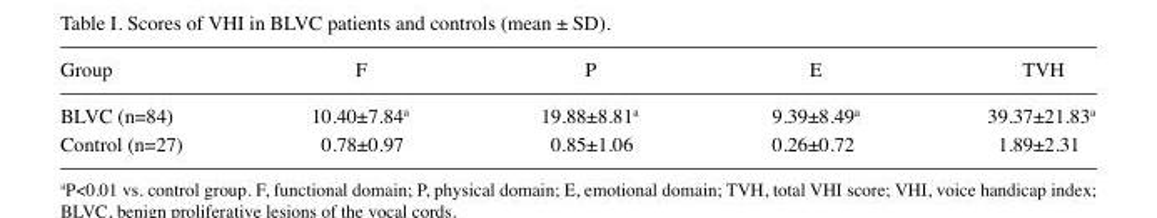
<table><thead><tr><td>Group</td><td>F</td><td>P</td><td>E</td><td>TVH</td></tr></thead><tbody><tr><td>BLVC (n=84)</td><td>10.40±7.84<sup>a</sup></td><td>19.88±8.81<sup>a</sup></td><td>9.39±8.49<sup>a</sup></td><td>39.37±21.83<sup>a</sup></td></tr><tr><td>Control (n=27)</td><td>0.78±0.97</td><td>0.85±1.06</td><td>0.26±0.72</td><td>1.89±2.31</td></tr></tbody></table>